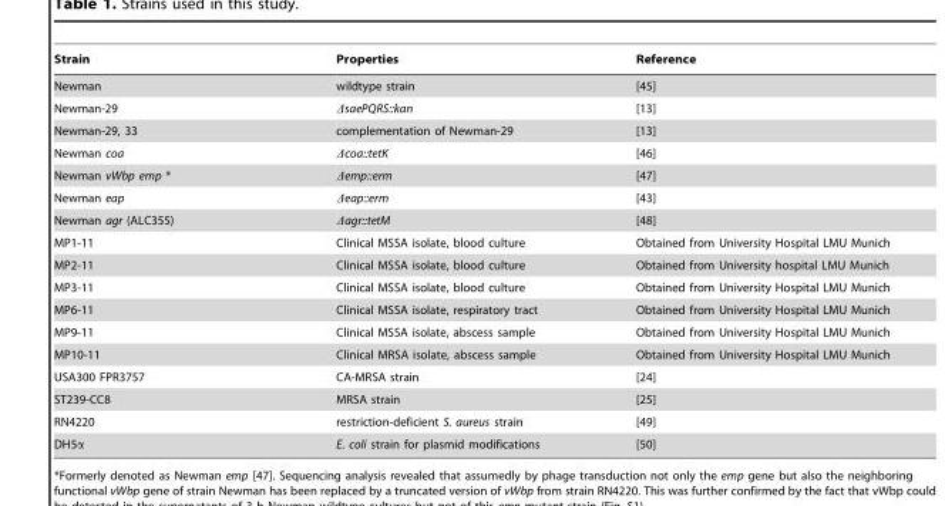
<table><thead><tr><td>Strain</td><td>Properties</td><td>Reference</td></tr></thead><tbody><tr><td>Newman</td><td>wildtype strain</td><td>[45]</td></tr><tr><td>Newman-29</td><td>ΔsaePQRS::kan</td><td>[13]</td></tr><tr><td>Newman-29, 33</td><td>complementation of Newman-29</td><td>[13]</td></tr><tr><td>Newman coa</td><td>Δcoa::tetK</td><td>[46]</td></tr><tr><td>Newman vWbp emp *</td><td>Δemp::erm</td><td>[47]</td></tr><tr><td>Newman eap</td><td>Δeap::erm</td><td>[43]</td></tr><tr><td>Newman agr (ALC355)</td><td>Δagr::tetM</td><td>[48]</td></tr><tr><td>MP1-11</td><td>Clinical MSSA isolate, blood culture</td><td>Obtained from University Hospital LMU Munich</td></tr><tr><td>MP2-11</td><td>Clinical MSSA isolate, blood culture</td><td>Obtained from University hospital LMU Munich</td></tr><tr><td>MP3-11</td><td>Clinical MSSA isolate, blood culture</td><td>Obtained from University Hospital LMU Munich</td></tr><tr><td>MP6-11</td><td>Clinical MSSA isolate, respiratory tract</td><td>Obtained from University Hospital LMU Munich</td></tr><tr><td>MP9-11</td><td>Clinical MSSA isolate, abscess sample</td><td>Obtained from University Hospital LMU Munich</td></tr><tr><td>MP10-11</td><td>Clinical MRSA isolate, abscess sample</td><td>Obtained from University Hospital LMU Munich</td></tr><tr><td>USA300 FPR3757</td><td>CA-MRSA strain</td><td>[24]</td></tr><tr><td>ST239-CC8</td><td>MRSA strain</td><td>[25]</td></tr><tr><td>RN4220</td><td>restriction-deficient S. aureus strain</td><td>[49]</td></tr><tr><td>DH5α</td><td>E. coli strain for plasmid modifications</td><td>[50]</td></tr></tbody></table>